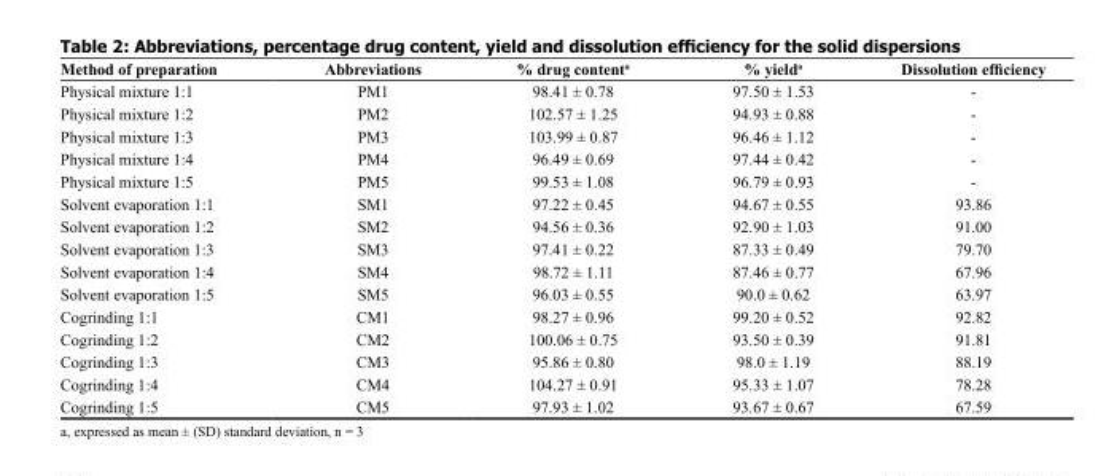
<table><thead><tr><td>Method of preparation</td><td>Abbreviations</td><td>% drug content<sup>a</sup></td><td>% yield<sup>a</sup></td><td>Dissolution efficiency</td></tr></thead><tbody><tr><td>Physical mixture 1:1</td><td>PM1</td><td>98.41 ± 0.78</td><td>97.50 ± 1.53</td><td>-</td></tr><tr><td>Physical mixture 1:2</td><td>PM2</td><td>102.57 ± 1.25</td><td>94.93 ± 0.88</td><td>-</td></tr><tr><td>Physical mixture 1:3</td><td>PM3</td><td>103.99 ± 0.87</td><td>96.46 ± 1.12</td><td>-</td></tr><tr><td>Physical mixture 1:4</td><td>PM4</td><td>96.49 ± 0.69</td><td>97.44 ± 0.42</td><td>-</td></tr><tr><td>Physical mixture 1:5</td><td>PM5</td><td>99.53 ± 1.08</td><td>96.79 ± 0.93</td><td>-</td></tr><tr><td>Solvent evaporation 1:1</td><td>SM1</td><td>97.22 ± 0.45</td><td>94.67 ± 0.55</td><td>93.86</td></tr><tr><td>Solvent evaporation 1:2</td><td>SM2</td><td>94.56 ± 0.36</td><td>92.90 ± 1.03</td><td>91.00</td></tr><tr><td>Solvent evaporation 1:3</td><td>SM3</td><td>97.41 ± 0.22</td><td>87.33 ± 0.49</td><td>79.70</td></tr><tr><td>Solvent evaporation 1:4</td><td>SM4</td><td>98.72 ± 1.11</td><td>87.46 ± 0.77</td><td>67.96</td></tr><tr><td>Solvent evaporation 1:5</td><td>SM5</td><td>96.03 ± 0.55</td><td>90.0 ± 0.62</td><td>63.97</td></tr><tr><td>Cogrinding 1:1</td><td>CM1</td><td>98.27 ± 0.96</td><td>99.20 ± 0.52</td><td>92.82</td></tr><tr><td>Cogrinding 1:2</td><td>CM2</td><td>100.06 ± 0.75</td><td>93.50 ± 0.39</td><td>91.81</td></tr><tr><td>Cogrinding 1:3</td><td>CM3</td><td>95.86 ± 0.80</td><td>98.0 ± 1.19</td><td>88.19</td></tr><tr><td>Cogrinding 1:4</td><td>CM4</td><td>104.27 ± 0.91</td><td>95.33 ± 1.07</td><td>78.28</td></tr><tr><td>Cogrinding 1:5</td><td>CM5</td><td>97.93 ± 1.02</td><td>93.67 ± 0.67</td><td>67.59</td></tr></tbody></table>